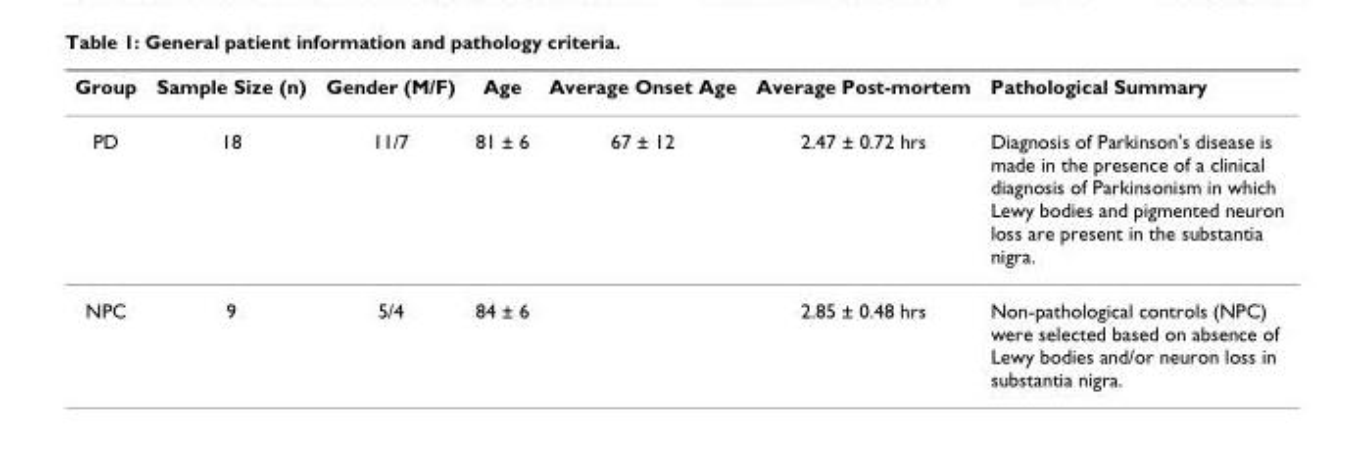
<table><thead><tr><td>Group</td><td>Sample Size (n)</td><td>Gender (M/F)</td><td>Age</td><td>Average Onset Age</td><td>Average Post-mortem</td><td>Pathological Summary</td></tr></thead><tbody><tr><td>PD</td><td>18</td><td>11/7</td><td>81 ± 6</td><td>67 ± 12</td><td>2.47 ± 0.72 hrs</td><td>Diagnosis of Parkinson&#x27;s disease is made in the presence of a clinical diagnosis of Parkinsonism in which Lewy bodies and pigmented neuron loss are present in the substantia nigra.</td></tr><tr><td>NPC</td><td>9</td><td>5/4</td><td>84 ± 6</td><td></td><td>2.85 ± 0.48 hrs</td><td>Non-pathological controls (NPC) were selected based on absence of Lewy bodies and/or neuron loss in substantia nigra.</td></tr></tbody></table>